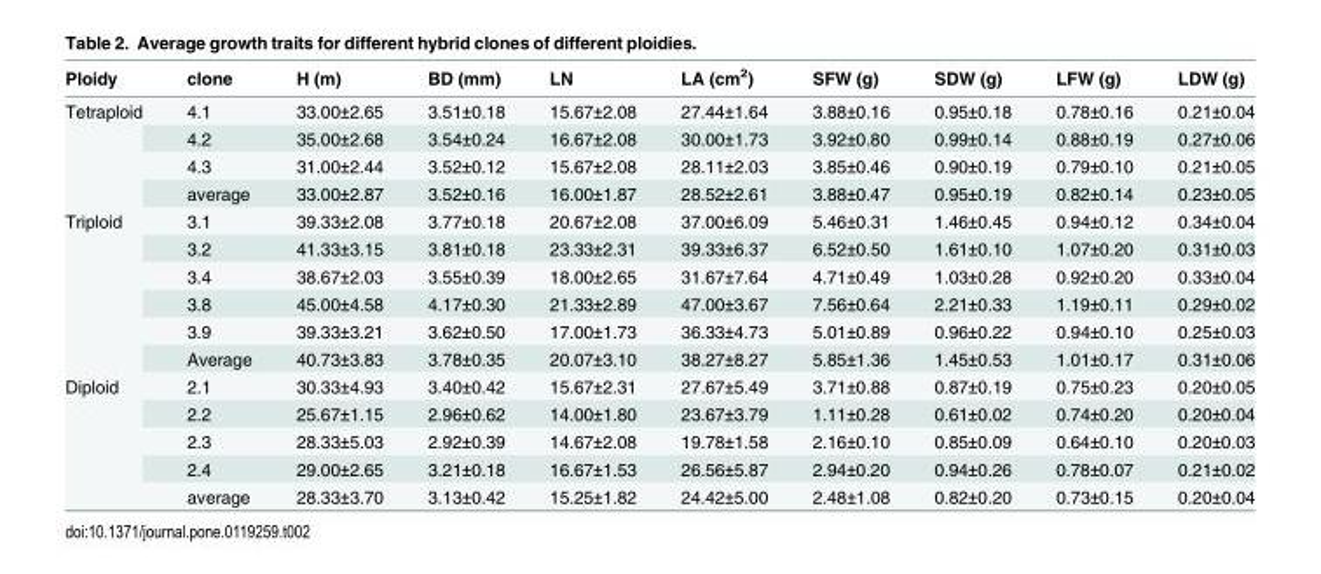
<table><thead><tr><td>Ploidy</td><td>clone</td><td>H (m)</td><td>BD (mm)</td><td>LN</td><td>LA (cm<sup>2</sup>)</td><td>SFW (g)</td><td>SDW (g)</td><td>LFW (g)</td><td>LDW (g)</td></tr></thead><tbody><tr><td rowspan="4">Tetraploid</td><td>4.1</td><td>33.00±2.65</td><td>3.51±0.18</td><td>15.67±2.08</td><td>27.44±1.64</td><td>3.88±0.16</td><td>0.95±0.18</td><td>0.78±0.16</td><td>0.21±0.04</td></tr><tr><td>4.2</td><td>35.00±2.68</td><td>3.54±0.24</td><td>16.67±2.08</td><td>30.00±1.73</td><td>3.92±0.80</td><td>0.99±0.14</td><td>0.88±0.19</td><td>0.27±0.06</td></tr><tr><td>4.3</td><td>31.00±2.44</td><td>3.52±0.12</td><td>15.67±2.08</td><td>28.11±2.03</td><td>3.85±0.46</td><td>0.90±0.19</td><td>0.79±0.10</td><td>0.21±0.05</td></tr><tr><td>average</td><td>33.00±2.87</td><td>3.52±0.16</td><td>16.00±1.87</td><td>28.52±2.61</td><td>3.88±0.47</td><td>0.95±0.19</td><td>0.82±0.14</td><td>0.23±0.05</td></tr><tr><td rowspan="6">Triploid</td><td>3.1</td><td>39.33±2.08</td><td>3.77±0.18</td><td>20.67±2.08</td><td>37.00±6.09</td><td>5.46±0.31</td><td>1.46±0.45</td><td>0.94±0.12</td><td>0.34±0.04</td></tr><tr><td>3.2</td><td>41.33±3.15</td><td>3.81±0.18</td><td>23.33±2.31</td><td>39.33±6.37</td><td>6.52±0.50</td><td>1.61±0.10</td><td>1.07±0.20</td><td>0.31±0.03</td></tr><tr><td>3.4</td><td>38.67±2.03</td><td>3.55±0.39</td><td>18.00±2.65</td><td>31.67±7.64</td><td>4.71±0.49</td><td>1.03±0.28</td><td>0.92±0.20</td><td>0.33±0.04</td></tr><tr><td>3.8</td><td>45.00±4.58</td><td>4.17±0.30</td><td>21.33±2.89</td><td>47.00±3.67</td><td>7.56±0.64</td><td>2.21±0.33</td><td>1.19±0.11</td><td>0.29±0.02</td></tr><tr><td>3.9</td><td>39.33±3.21</td><td>3.62±0.50</td><td>17.00±1.73</td><td>36.33±4.73</td><td>5.01±0.89</td><td>0.96±0.22</td><td>0.94±0.10</td><td>0.25±0.03</td></tr><tr><td>Average</td><td>40.73±3.83</td><td>3.78±0.35</td><td>20.07±3.10</td><td>38.27±8.27</td><td>5.85±1.36</td><td>1.45±0.53</td><td>1.01±0.17</td><td>0.31±0.06</td></tr><tr><td rowspan="5">Diploid</td><td>2.1</td><td>30.33±4.93</td><td>3.40±0.42</td><td>15.67±2.31</td><td>27.67±5.49</td><td>3.71±0.88</td><td>0.87±0.19</td><td>0.75±0.23</td><td>0.20±0.05</td></tr><tr><td>2.2</td><td>25.67±1.15</td><td>2.96±0.62</td><td>14.00±1.80</td><td>23.67±3.79</td><td>1.11±0.28</td><td>0.61±0.02</td><td>0.74±0.20</td><td>0.20±0.04</td></tr><tr><td>2.3</td><td>28.33±5.03</td><td>2.92±0.39</td><td>14.67±2.08</td><td>19.78±1.58</td><td>2.16±0.10</td><td>0.85±0.09</td><td>0.64±0.10</td><td>0.20±0.03</td></tr><tr><td>2.4</td><td>29.00±2.65</td><td>3.21±0.18</td><td>16.67±1.53</td><td>26.56±5.87</td><td>2.94±0.20</td><td>0.94±0.26</td><td>0.78±0.07</td><td>0.21±0.02</td></tr><tr><td>average</td><td>28.33±3.70</td><td>3.13±0.42</td><td>15.25±1.82</td><td>24.42±5.00</td><td>2.48±1.08</td><td>0.82±0.20</td><td>0.73±0.15</td><td>0.20±0.04</td></tr></tbody></table>